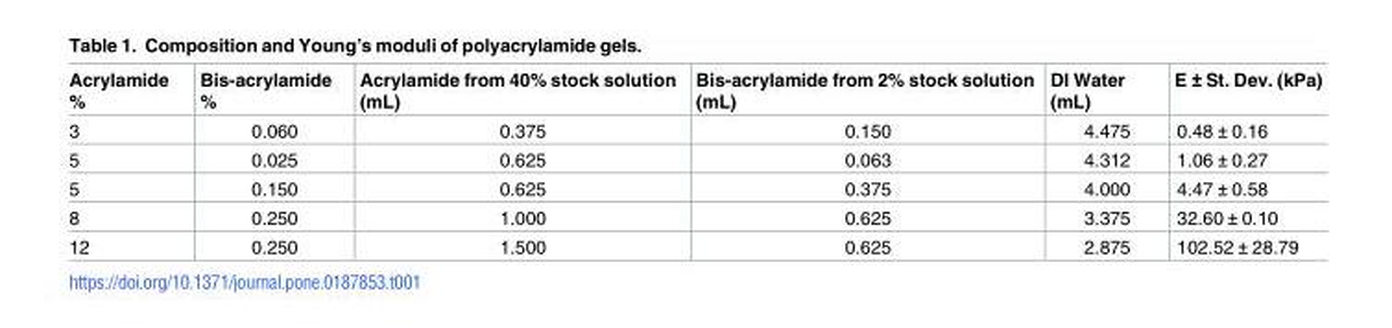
<table><thead><tr><td>Acrylamide %</td><td>Bis-acrylamide %</td><td>Acrylamide from 40% stock solution (mL)</td><td>Bis-acrylamide from 2% stock solution (mL)</td><td>DI Water (mL)</td><td>E ± St. Dev. (kPa)</td></tr></thead><tbody><tr><td>3</td><td>0.060</td><td>0.375</td><td>0.150</td><td>4.475</td><td>0.48 ± 0.16</td></tr><tr><td>5</td><td>0.025</td><td>0.625</td><td>0.063</td><td>4.312</td><td>1.06 ± 0.27</td></tr><tr><td>5</td><td>0.150</td><td>0.625</td><td>0.375</td><td>4.000</td><td>4.47 ± 0.58</td></tr><tr><td>8</td><td>0.250</td><td>1.000</td><td>0.625</td><td>3.375</td><td>32.60 ± 0.10</td></tr><tr><td>12</td><td>0.250</td><td>1.500</td><td>0.625</td><td>2.875</td><td>102.52 ± 28.79</td></tr></tbody></table>